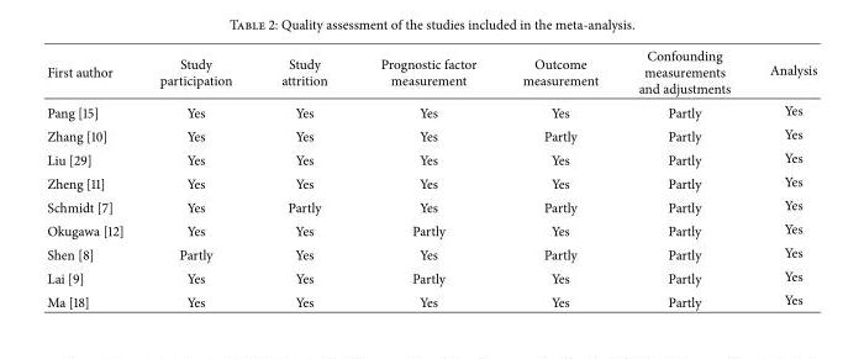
<table><thead><tr><td>First author</td><td>Study participation</td><td>Study attrition</td><td>Prognostic factor measurement</td><td>Outcome measurement</td><td>Confounding measurements and adjustments</td><td>Analysis</td></tr></thead><tbody><tr><td>Pang [15]</td><td>Yes</td><td>Yes</td><td>Yes</td><td>Yes</td><td>Partly</td><td>Yes</td></tr><tr><td>Zhang [10]</td><td>Yes</td><td>Yes</td><td>Yes</td><td>Partly</td><td>Partly</td><td>Yes</td></tr><tr><td>Liu [29]</td><td>Yes</td><td>Yes</td><td>Yes</td><td>Yes</td><td>Partly</td><td>Yes</td></tr><tr><td>Zheng [11]</td><td>Yes</td><td>Yes</td><td>Yes</td><td>Yes</td><td>Partly</td><td>Yes</td></tr><tr><td>Schmidt [7]</td><td>Yes</td><td>Partly</td><td>Yes</td><td>Partly</td><td>Partly</td><td>Yes</td></tr><tr><td>Okugawa [12]</td><td>Yes</td><td>Yes</td><td>Partly</td><td>Yes</td><td>Partly</td><td>Yes</td></tr><tr><td>Shen [8]</td><td>Partly</td><td>Yes</td><td>Yes</td><td>Partly</td><td>Partly</td><td>Yes</td></tr><tr><td>Lai [9]</td><td>Yes</td><td>Yes</td><td>Partly</td><td>Yes</td><td>Partly</td><td>Yes</td></tr><tr><td>Ma [18]</td><td>Yes</td><td>Yes</td><td>Yes</td><td>Yes</td><td>Partly</td><td>Yes</td></tr></tbody></table>